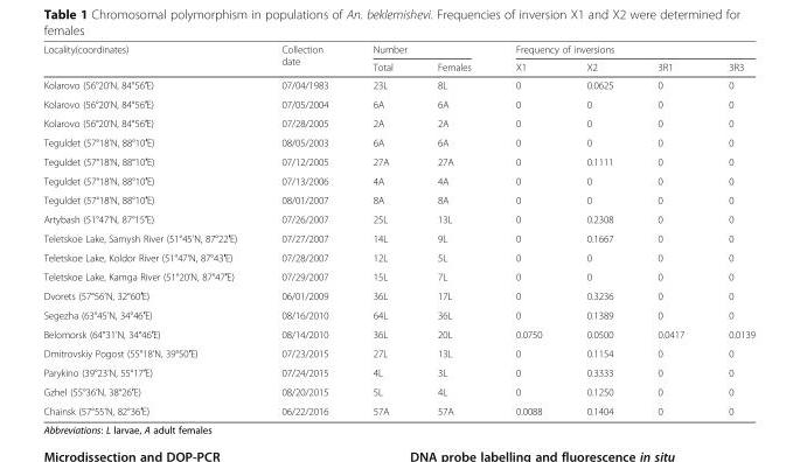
<table><thead><tr><td rowspan="2">Locality(coordinates)</td><td rowspan="2">Collection date</td><td colspan="2">Number</td><td colspan="4">Frequency of inversions</td></tr><tr><td>Total</td><td>Females</td><td>X1</td><td>X2</td><td>3R1</td><td>3R3</td></tr></thead><tbody><tr><td>Kolarovo (56°20’N, 84°56′E)</td><td>07/04/1983</td><td>23L</td><td>8L</td><td>0</td><td>0.0625</td><td>0</td><td>0</td></tr><tr><td>Kolarovo (56°20’N, 84°56′E)</td><td>07/05/2004</td><td>6A</td><td>6A</td><td>0</td><td>0</td><td>0</td><td>0</td></tr><tr><td>Kolarovo (56°20’N, 84°56′E)</td><td>07/28/2005</td><td>2A</td><td>2A</td><td>0</td><td>0</td><td>0</td><td>0</td></tr><tr><td>Teguldet (57°18’N, 88°10′E)</td><td>08/05/2003</td><td>6A</td><td>6A</td><td>0</td><td>0</td><td>0</td><td>0</td></tr><tr><td>Teguldet (57°18’N, 88°10′E)</td><td>07/12/2005</td><td>27A</td><td>27A</td><td>0</td><td>0.1111</td><td>0</td><td>0</td></tr><tr><td>Teguldet (57°18’N, 88°10′E)</td><td>07/13/2006</td><td>4A</td><td>4A</td><td>0</td><td>0</td><td>0</td><td>0</td></tr><tr><td>Teguldet (57°18’N, 88°10′E)</td><td>08/01/2007</td><td>8A</td><td>8A</td><td>0</td><td>0</td><td>0</td><td>0</td></tr><tr><td>Artybash (51°47’N, 87°15′E)</td><td>07/26/2007</td><td>25L</td><td>13L</td><td>0</td><td>0.2308</td><td>0</td><td>0</td></tr><tr><td>Teletskoe Lake, Samysh River (51°45’N, 87°22′E)</td><td>07/27/2007</td><td>14L</td><td>9L</td><td>0</td><td>0.1667</td><td>0</td><td>0</td></tr><tr><td>Teletskoe Lake, Koldor River (51°47’N, 87°43′E)</td><td>07/28/2007</td><td>12L</td><td>5L</td><td>0</td><td>0</td><td>0</td><td>0</td></tr><tr><td>Teletskoe Lake, Kamga River (51°20’N, 87°47′E)</td><td>07/29/2007</td><td>15L</td><td>7L</td><td>0</td><td>0</td><td>0</td><td>0</td></tr><tr><td>Dvorets (57°56’N, 32°60′E)</td><td>06/01/2009</td><td>36L</td><td>17L</td><td>0</td><td>0.3236</td><td>0</td><td>0</td></tr><tr><td>Segezha (63°45’N, 34°46′E)</td><td>08/16/2010</td><td>64L</td><td>36L</td><td>0</td><td>0.1389</td><td>0</td><td>0</td></tr><tr><td>Belomorsk (64°31’N, 34°46′E)</td><td>08/14/2010</td><td>36L</td><td>20L</td><td>0.0750</td><td>0.0500</td><td>0.0417</td><td>0.0139</td></tr><tr><td>Dmitrovskiy Pogost (55°18’N, 39°50′E)</td><td>07/23/2015</td><td>27L</td><td>13L</td><td>0</td><td>0.1154</td><td>0</td><td>0</td></tr><tr><td>Parykino (39°23’N, 55°17′E)</td><td>07/24/2015</td><td>4L</td><td>3L</td><td>0</td><td>0.3333</td><td>0</td><td>0</td></tr><tr><td>Gzhel (55°36’N, 38°26′E)</td><td>08/20/2015</td><td>5L</td><td>4L</td><td>0</td><td>0.1250</td><td>0</td><td>0</td></tr><tr><td>Chainsk (57°55’N, 82°36′E)</td><td>06/22/2016</td><td>57A</td><td>57A</td><td>0.0088</td><td>0.1404</td><td>0</td><td>0</td></tr></tbody></table>